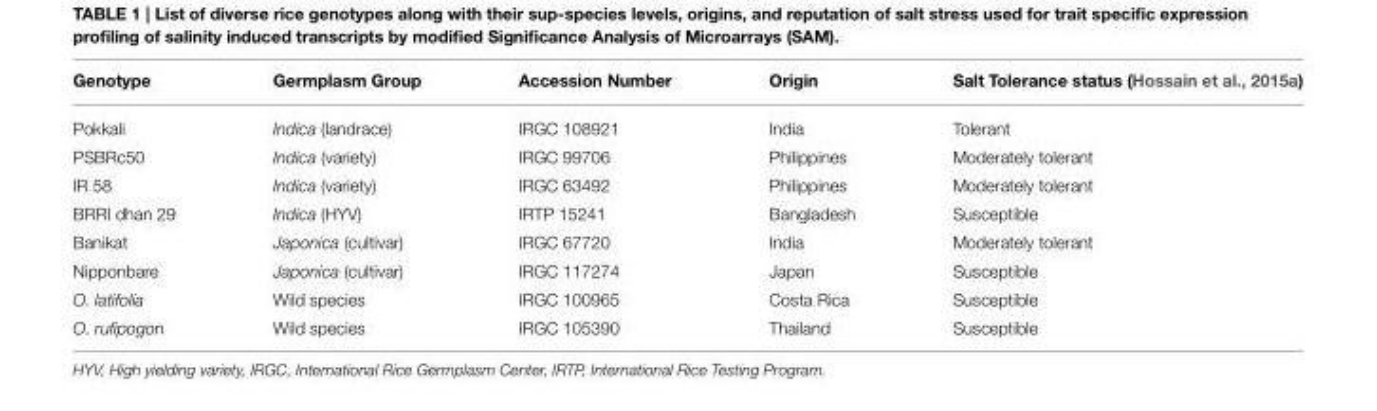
<table><thead><tr><td>Genotype</td><td>Germplasm Group</td><td>Accession Number</td><td>Origin</td><td>Salt Tolerance status (Hossain et al., 2015a)</td></tr></thead><tbody><tr><td>Pokkali</td><td>Indica (landrace)</td><td>IRGC 108921</td><td>India</td><td>Tolerant</td></tr><tr><td>PSBRc50</td><td>Indica (variety)</td><td>IRGC 99706</td><td>Philippines</td><td>Moderately tolerant</td></tr><tr><td>IR 58</td><td>Indica (variety)</td><td>IRGC 63492</td><td>Philippines</td><td>Moderately tolerant</td></tr><tr><td>BRRI dhan 29</td><td>Indica (HYV)</td><td>IRTP 15241</td><td>Bangladesh</td><td>Susceptible</td></tr><tr><td>Banikat</td><td>Japonica (cultivar)</td><td>IRGC 67720</td><td>India</td><td>Moderately tolerant</td></tr><tr><td>Nipponbare</td><td>Japonica (cultivar)</td><td>IRGC 117274</td><td>Japan</td><td>Susceptible</td></tr><tr><td>O. latifolia</td><td>Wild species</td><td>IRGC 100965</td><td>Costa Rica</td><td>Susceptible</td></tr><tr><td>O. rufipogon</td><td>Wild species</td><td>IRGC 105390</td><td>Thailand</td><td>Susceptible</td></tr></tbody></table>